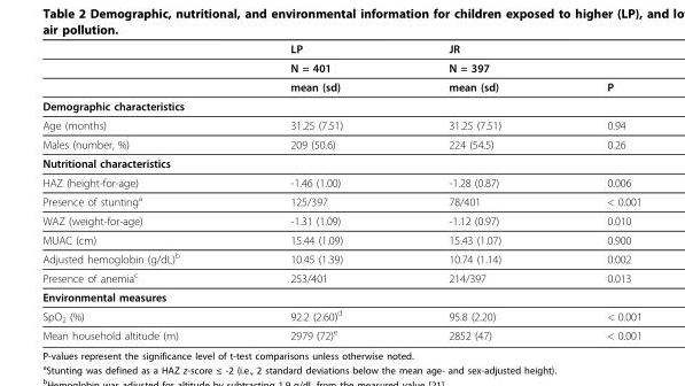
<table><thead><tr><td></td><td>LP</td><td>JR</td><td></td></tr></thead><tbody><tr><td></td><td>N = 401</td><td>N = 397</td><td></td></tr><tr><td></td><td>mean (sd)</td><td>mean (sd)</td><td>P</td></tr><tr><td colspan="4">Demographic characteristics</td></tr><tr><td>Age (months)</td><td>31.25 (7.51)</td><td>31.25 (7.51)</td><td>0.94</td></tr><tr><td>Males (number, %)</td><td>209 (50.6)</td><td>224 (54.5)</td><td>0.26</td></tr><tr><td colspan="4">Nutritional characteristics</td></tr><tr><td>HAZ (height-for-age)</td><td>-1.46 (1.00)</td><td>-1.28 (0.87)</td><td>0.006</td></tr><tr><td>Presence of stunting<sup>a</sup></td><td>125/397</td><td>78/401</td><td>&lt; 0.001</td></tr><tr><td>WAZ (weight-for-age)</td><td>-1.31 (1.09)</td><td>-1.12 (0.97)</td><td>0.010</td></tr><tr><td>MUAC (cm)</td><td>15.44 (1.09)</td><td>15.43 (1.07)</td><td>0.900</td></tr><tr><td>Adjusted hemoglobin (g/dL)<sup>b</sup></td><td>10.45 (1.39)</td><td>10.74 (1.14)</td><td>0.002</td></tr><tr><td>Presence of anemia<sup>c</sup></td><td>253/401</td><td>214/397</td><td>0.013</td></tr><tr><td colspan="4">Environmental measures</td></tr><tr><td>SpO<sub>2</sub> (%)</td><td>92.2 (2.60)<sup>d</sup></td><td>95.8 (2.20)</td><td>&lt; 0.001</td></tr><tr><td>Mean household altitude (m)</td><td>2979 (72)<sup>e</sup></td><td>2852 (47)</td><td>&lt; 0.001</td></tr></tbody></table>